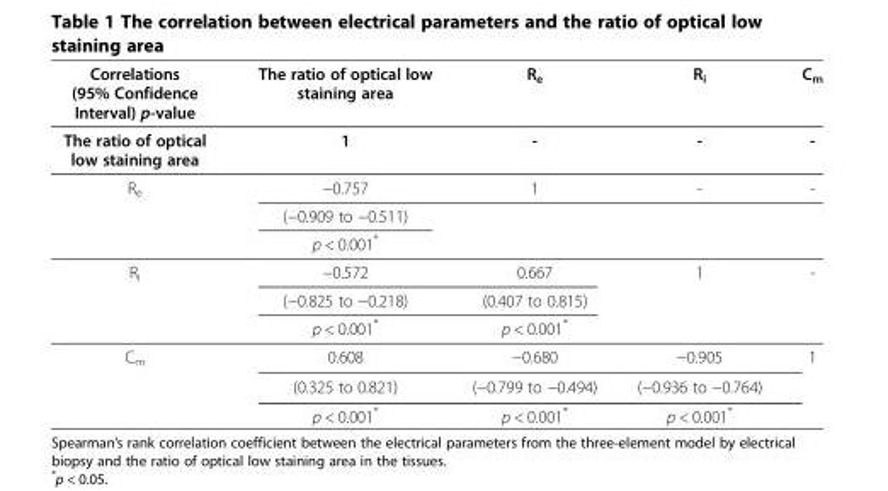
<table><thead><tr><td rowspan="2">Correlations (95% Confidence Interval) p-value The ratio of optical low staining area</td><td rowspan="2">The ratio of optical low staining area 1</td><td rowspan="2">Re -</td><td rowspan="2">Ri -</td><td rowspan="2">Cm -</td></tr><tr></tr></thead><tbody><tr><td rowspan="3">Re</td><td>−0.757</td><td>1</td><td>-</td><td>-</td></tr><tr><td>(−0.909 to −0.511)</td><td rowspan="2"></td><td rowspan="2"></td><td rowspan="2"></td></tr><tr><td>p &lt; 0.001*</td></tr><tr><td rowspan="3">Ri</td><td>−0.572</td><td>0.667</td><td rowspan="3">1</td><td rowspan="3">-</td></tr><tr><td>(−0.825 to −0.218)</td><td>(0.407 to 0.815)</td></tr><tr><td>p &lt; 0.001*</td><td>p &lt; 0.001*</td></tr><tr><td rowspan="3">Cm</td><td>0.608</td><td>−0.680</td><td>−0.905</td><td>1</td></tr><tr><td>(0.325 to 0.821)</td><td>(−0.799 to −0.494)</td><td>(−0.936 to −0.764)</td><td></td></tr><tr><td>p &lt; 0.001*</td><td>p &lt; 0.001*</td><td>p &lt; 0.001*</td><td></td></tr></tbody></table>